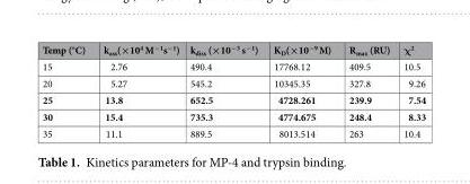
<table><thead><tr><td>Temp (°C)</td><td>k<sub>ass</sub>(×10<sup>4</sup> M<sup>−1</sup>s<sup>−1</sup>)</td><td>k<sub>diss</sub> (×10<sup>−3</sup> s<sup>−1</sup>)</td><td>K<sub>D</sub>(×10<sup>−9</sup> M)</td><td>R<sub>max</sub> (RU)</td><td>χ<sup>2</sup></td></tr></thead><tbody><tr><td>15</td><td>2.76</td><td>490.4</td><td>17768.12</td><td>409.5</td><td>10.5</td></tr><tr><td>20</td><td>5.27</td><td>545.2</td><td>10345.35</td><td>327.8</td><td>9.26</td></tr><tr><td>25</td><td>13.8</td><td>652.5</td><td>4728.261</td><td>239.9</td><td>7.54</td></tr><tr><td>30</td><td>15.4</td><td>735.3</td><td>4774.675</td><td>248.4</td><td>8.33</td></tr><tr><td>35</td><td>11.1</td><td>889.5</td><td>8013.514</td><td>263</td><td>10.4</td></tr></tbody></table>